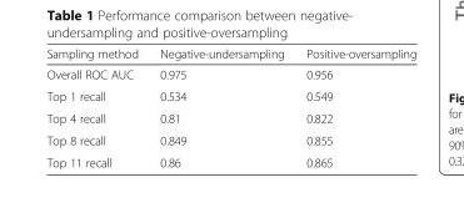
<table><thead><tr><td>Sampling method</td><td>Negative-undersampling</td><td>Positive-oversampling</td></tr></thead><tbody><tr><td>Overall ROC AUC</td><td>0.975</td><td>0.956</td></tr><tr><td>Top 1 recall</td><td>0.534</td><td>0.549</td></tr><tr><td>Top 4 recall</td><td>0.81</td><td>0.822</td></tr><tr><td>Top 8 recall</td><td>0.849</td><td>0.855</td></tr><tr><td>Top 11 recall</td><td>0.86</td><td>0.865</td></tr></tbody></table>